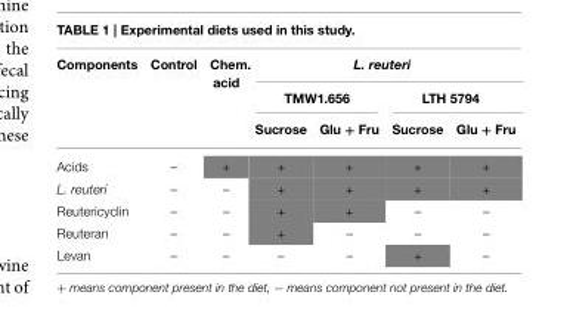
<table><thead><tr><td rowspan="3">Components</td><td rowspan="3">Control</td><td rowspan="3">Chem. acid</td><td colspan="4">L. reuteri</td></tr><tr><td colspan="2">TMW1.656</td><td colspan="2">LTH 5794</td></tr><tr><td>Sucrose</td><td>Glu + Fru</td><td>Sucrose</td><td>Glu + Fru</td></tr></thead><tbody><tr><td>Acids</td><td>–</td><td>+</td><td>+</td><td>+</td><td>+</td><td>+</td></tr><tr><td>L. reuteri</td><td>–</td><td>–</td><td>+</td><td>+</td><td>+</td><td>+</td></tr><tr><td>Reutericyclin</td><td>–</td><td>–</td><td>+</td><td>+</td><td>–</td><td>–</td></tr><tr><td>Reuteran</td><td>–</td><td>–</td><td>+</td><td>–</td><td>–</td><td>–</td></tr><tr><td>Levan</td><td>–</td><td>–</td><td>–</td><td>–</td><td>+</td><td>–</td></tr></tbody></table>